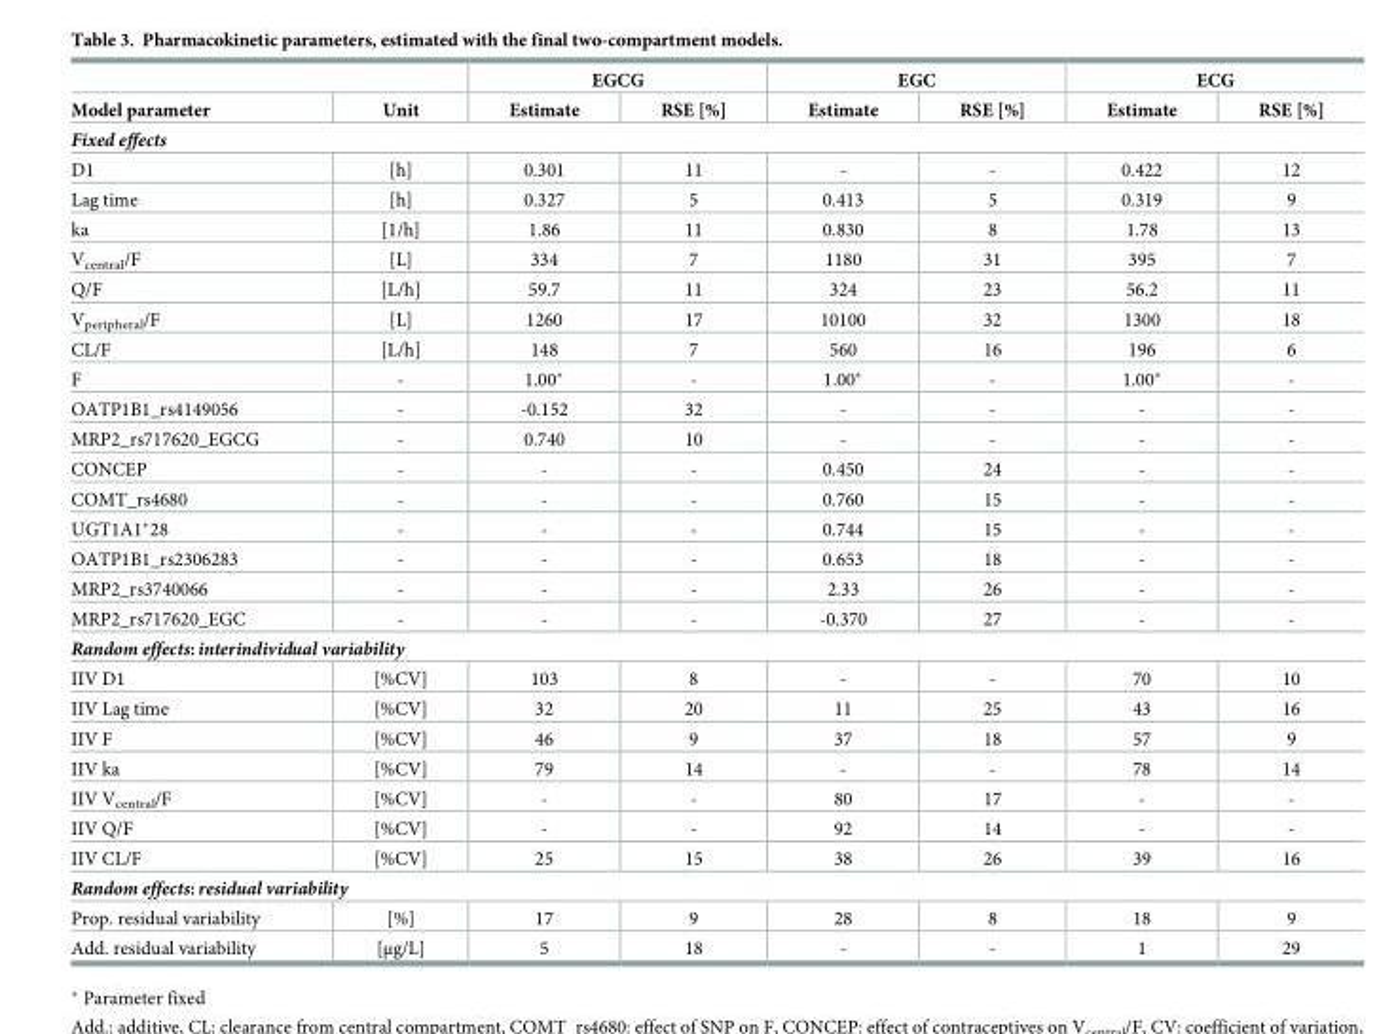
<table><thead><tr><td rowspan="2">Model parameter</td><td rowspan="2">Unit</td><td colspan="2">EGCG</td><td colspan="2">EGC</td><td colspan="2">ECG</td></tr><tr><td>Estimate</td><td>RSE [%]</td><td>Estimate</td><td>RSE [%]</td><td>Estimate</td><td>RSE [%]</td></tr></thead><tbody><tr><td colspan="8">Fixed effects</td></tr><tr><td>D1</td><td>[h]</td><td>0.301</td><td>11</td><td>-</td><td>-</td><td>0.422</td><td>12</td></tr><tr><td>Lag time</td><td>[h]</td><td>0.327</td><td>5</td><td>0.413</td><td>5</td><td>0.319</td><td>9</td></tr><tr><td>ka</td><td>[1/h]</td><td>1.86</td><td>11</td><td>0.830</td><td>8</td><td>1.78</td><td>13</td></tr><tr><td>V<sub>central</sub>/F</td><td>[L]</td><td>334</td><td>7</td><td>1180</td><td>31</td><td>395</td><td>7</td></tr><tr><td>Q/F</td><td>[L/h]</td><td>59.7</td><td>11</td><td>324</td><td>23</td><td>56.2</td><td>11</td></tr><tr><td>V<sub>peripheral</sub>/F</td><td>[L]</td><td>1260</td><td>17</td><td>10100</td><td>32</td><td>1300</td><td>18</td></tr><tr><td>CL/F</td><td>[L/h]</td><td>148</td><td>7</td><td>560</td><td>16</td><td>196</td><td>6</td></tr><tr><td>F</td><td>-</td><td>1.00*</td><td>-</td><td>1.00*</td><td>-</td><td>1.00*</td><td>-</td></tr><tr><td>OATP1B1_rs4149056</td><td>-</td><td>-0.152</td><td>32</td><td>-</td><td>-</td><td>-</td><td>-</td></tr><tr><td>MRP2_rs717620_EGCG</td><td>-</td><td>0.740</td><td>10</td><td>-</td><td>-</td><td>-</td><td>-</td></tr><tr><td>CONCEP</td><td>-</td><td>-</td><td>-</td><td>0.450</td><td>24</td><td>-</td><td>-</td></tr><tr><td>COMT_rs4680</td><td>-</td><td>-</td><td>-</td><td>0.760</td><td>15</td><td>-</td><td>-</td></tr><tr><td>UGT1A1*28</td><td>-</td><td>-</td><td>-</td><td>0.744</td><td>15</td><td>-</td><td>-</td></tr><tr><td>OATP1B1_rs2306283</td><td>-</td><td>-</td><td>-</td><td>0.653</td><td>18</td><td>-</td><td>-</td></tr><tr><td>MRP2_rs3740066</td><td>-</td><td>-</td><td>-</td><td>2.33</td><td>26</td><td>-</td><td>-</td></tr><tr><td>MRP2_rs717620_EGC</td><td>-</td><td>-</td><td>-</td><td>-0.370</td><td>27</td><td>-</td><td>-</td></tr><tr><td colspan="8">Random effects: interindividual variability</td></tr><tr><td>IIV D1</td><td>[%CV]</td><td>103</td><td>8</td><td>-</td><td>-</td><td>70</td><td>10</td></tr><tr><td>IIV Lag time</td><td>[%CV]</td><td>32</td><td>20</td><td>11</td><td>25</td><td>43</td><td>16</td></tr><tr><td>IIV F</td><td>[%CV]</td><td>46</td><td>9</td><td>37</td><td>18</td><td>57</td><td>9</td></tr><tr><td>IIV ka</td><td>[%CV]</td><td>79</td><td>14</td><td>-</td><td>-</td><td>78</td><td>14</td></tr><tr><td>IIV V<sub>central</sub>/F</td><td>[%CV]</td><td>-</td><td>-</td><td>80</td><td>17</td><td>-</td><td>-</td></tr><tr><td>IIV Q/F</td><td>[%CV]</td><td>-</td><td>-</td><td>92</td><td>14</td><td>-</td><td>-</td></tr><tr><td>IIV CL/F</td><td>[%CV]</td><td>25</td><td>15</td><td>38</td><td>26</td><td>39</td><td>16</td></tr><tr><td colspan="8">Random effects: residual variability</td></tr><tr><td>Prop. residual variability</td><td>[%]</td><td>17</td><td>9</td><td>28</td><td>8</td><td>18</td><td>9</td></tr><tr><td>Add. residual variability</td><td>[μg/L]</td><td>5</td><td>18</td><td>-</td><td>-</td><td>1</td><td>29</td></tr></tbody></table>